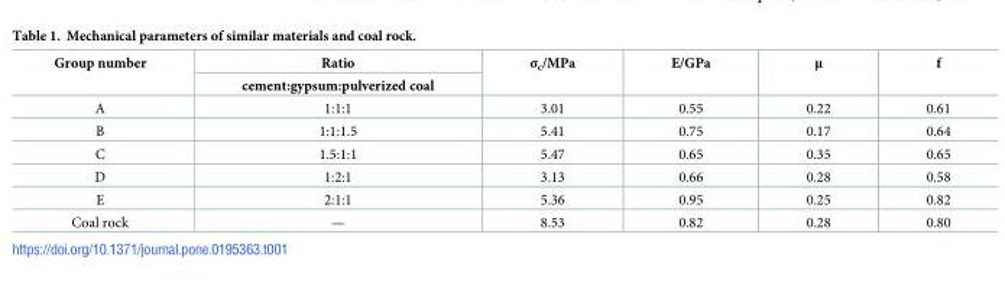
<table><thead><tr><td rowspan="2">Group number</td><td rowspan="2">Ratio cement:gypsum:pulverized coal</td><td rowspan="2">σ<sub>c</sub>/MPa</td><td rowspan="2">E/GPa</td><td rowspan="2">μ</td><td rowspan="2">f</td></tr><tr></tr></thead><tbody><tr><td>A</td><td>1:1:1</td><td>3.01</td><td>0.55</td><td>0.22</td><td>0.61</td></tr><tr><td>B</td><td>1:1:1.5</td><td>5.41</td><td>0.75</td><td>0.17</td><td>0.64</td></tr><tr><td>C</td><td>1.5:1:1</td><td>5.47</td><td>0.65</td><td>0.35</td><td>0.65</td></tr><tr><td>D</td><td>1:2:1</td><td>3.13</td><td>0.66</td><td>0.28</td><td>0.58</td></tr><tr><td>E</td><td>2:1:1</td><td>5.36</td><td>0.95</td><td>0.25</td><td>0.82</td></tr><tr><td>Coal rock</td><td>—</td><td>8.53</td><td>0.82</td><td>0.28</td><td>0.80</td></tr></tbody></table>